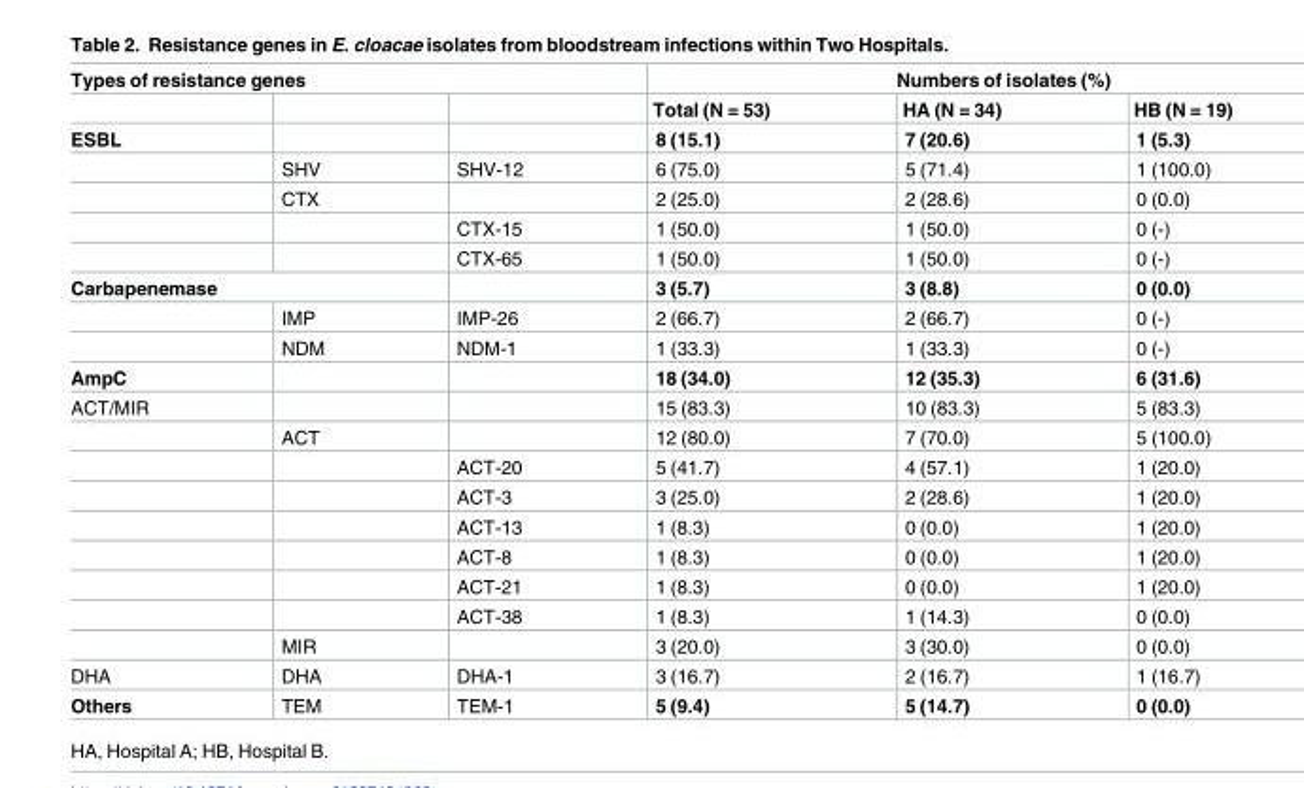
<table><thead><tr><td colspan="3">Types of resistance genes</td><td colspan="3">Numbers of isolates (%)</td></tr><tr><td></td><td></td><td></td><td>Total (N = 53)</td><td>HA (N = 34)</td><td>HB (N = 19)</td></tr></thead><tbody><tr><td rowspan="5">ESBL</td><td></td><td></td><td>8 (15.1)</td><td>7 (20.6)</td><td>1 (5.3)</td></tr><tr><td>SHV</td><td>SHV-12</td><td>6 (75.0)</td><td>5 (71.4)</td><td>1 (100.0)</td></tr><tr><td>CTX</td><td></td><td>2 (25.0)</td><td>2 (28.6)</td><td>0 (0.0)</td></tr><tr><td></td><td>CTX-15</td><td>1 (50.0)</td><td>1 (50.0)</td><td>0 (-)</td></tr><tr><td></td><td>CTX-65</td><td>1 (50.0)</td><td>1 (50.0)</td><td>0 (-)</td></tr><tr><td colspan="2">Carbapenemase</td><td></td><td>3 (5.7)</td><td>3 (8.8)</td><td>0 (0.0)</td></tr><tr><td></td><td>IMP</td><td>IMP-26</td><td>2 (66.7)</td><td>2 (66.7)</td><td>0 (-)</td></tr><tr><td></td><td>NDM</td><td>NDM-1</td><td>1 (33.3)</td><td>1 (33.3)</td><td>0 (-)</td></tr><tr><td>AmpC</td><td></td><td></td><td>18 (34.0)</td><td>12 (35.3)</td><td>6 (31.6)</td></tr><tr><td rowspan="9">ACT/MIR</td><td></td><td></td><td>15 (83.3)</td><td>10 (83.3)</td><td>5 (83.3)</td></tr><tr><td>ACT</td><td></td><td>12 (80.0)</td><td>7 (70.0)</td><td>5 (100.0)</td></tr><tr><td></td><td>ACT-20</td><td>5 (41.7)</td><td>4 (57.1)</td><td>1 (20.0)</td></tr><tr><td></td><td>ACT-3</td><td>3 (25.0)</td><td>2 (28.6)</td><td>1 (20.0)</td></tr><tr><td></td><td>ACT-13</td><td>1 (8.3)</td><td>0 (0.0)</td><td>1 (20.0)</td></tr><tr><td></td><td>ACT-8</td><td>1 (8.3)</td><td>0 (0.0)</td><td>1 (20.0)</td></tr><tr><td></td><td>ACT-21</td><td>1 (8.3)</td><td>0 (0.0)</td><td>1 (20.0)</td></tr><tr><td></td><td>ACT-38</td><td>1 (8.3)</td><td>1 (14.3)</td><td>0 (0.0)</td></tr><tr><td>MIR</td><td></td><td>3 (20.0)</td><td>3 (30.0)</td><td>0 (0.0)</td></tr><tr><td>DHA</td><td>DHA</td><td>DHA-1</td><td>3 (16.7)</td><td>2 (16.7)</td><td>1 (16.7)</td></tr><tr><td>Others</td><td>TEM</td><td>TEM-1</td><td>5 (9.4)</td><td>5 (14.7)</td><td>0 (0.0)</td></tr></tbody></table>